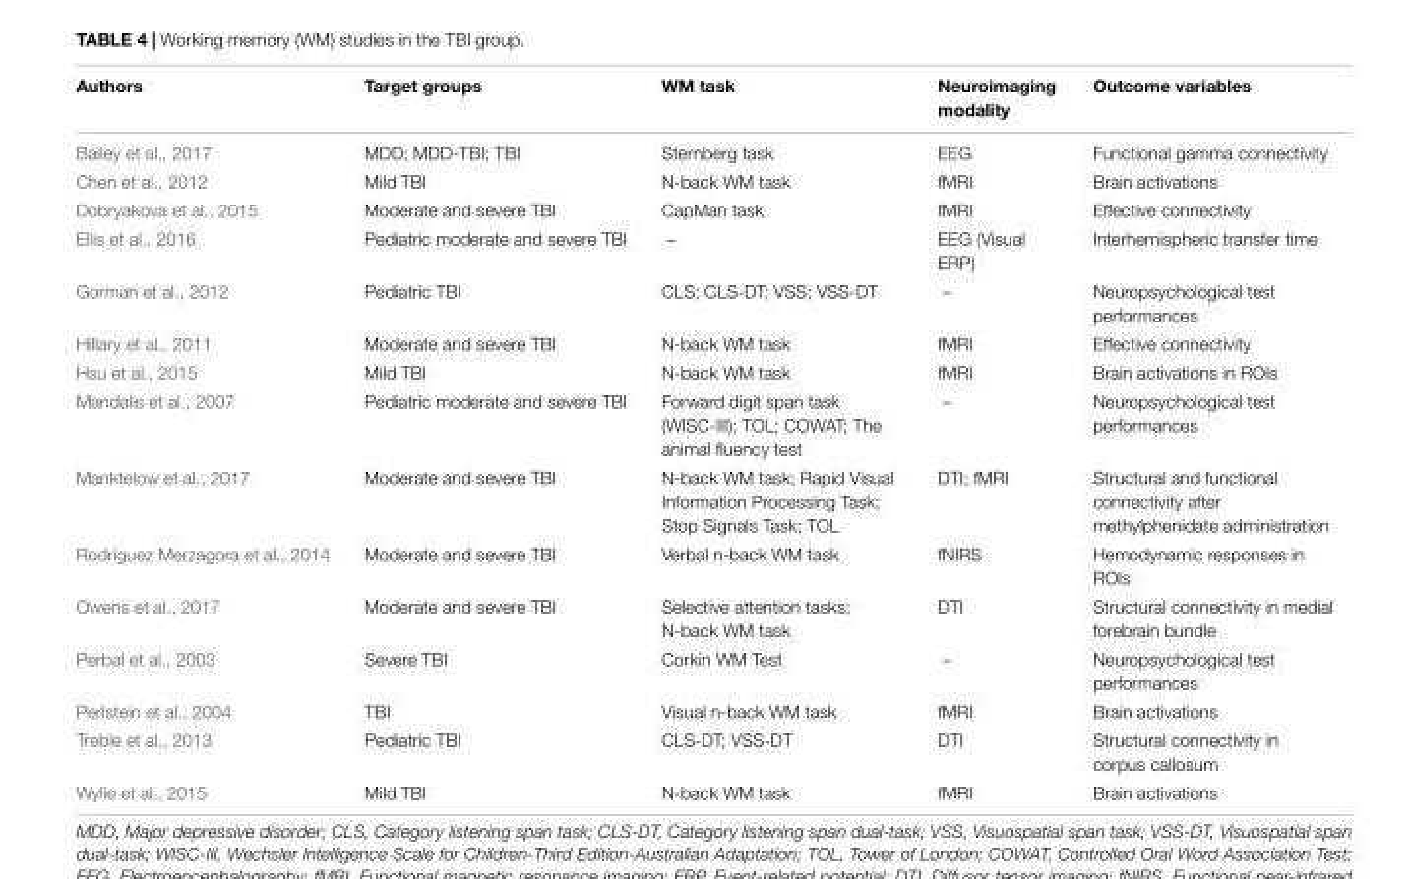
<table><thead><tr><td>Authors</td><td>Target groups</td><td>WM task</td><td>Neuroimaging modality</td><td>Outcome variables</td></tr></thead><tbody><tr><td>Bailey et al., 2017</td><td>MDD; MDD-TBI; TBI</td><td>Sternberg task</td><td>EEG</td><td>Functional gamma connectivity</td></tr><tr><td>Chen et al., 2012</td><td>Mild TBI</td><td>N-back WM task</td><td>fMRI</td><td>Brain activations</td></tr><tr><td>Dobryakova et al., 2015</td><td>Moderate and severe TBI</td><td>CapMan task</td><td>fMRI</td><td>Effective connectivity</td></tr><tr><td>Ellis et al., 2016</td><td>Pediatric moderate and severe TBI</td><td>–</td><td>EEG (Visual ERP)</td><td>Interhemispheric transfer time</td></tr><tr><td>Gorman et al., 2012</td><td>Pediatric TBI</td><td>CLS; CLS-DT; VSS; VSS-DT</td><td>–</td><td>Neuropsychological test performances</td></tr><tr><td>Hillary et al., 2011</td><td>Moderate and severe TBI</td><td>N-back WM task</td><td>fMRI</td><td>Effective connectivity</td></tr><tr><td>Hsu et al., 2015</td><td>Mild TBI</td><td>N-back WM task</td><td>fMRI</td><td>Brain activations in ROIs</td></tr><tr><td>Mandalis et al., 2007</td><td>Pediatric moderate and severe TBI</td><td>Forward digit span task (WISC-III); TOL; COWAT; The animal fluency test</td><td>–</td><td>Neuropsychological test performances</td></tr><tr><td>Manktelow et al., 2017</td><td>Moderate and severe TBI</td><td>N-back WM task; Rapid Visual Information Processing Task; Stop Signals Task; TOL</td><td>DTI; fMRI</td><td>Structural and functional connectivity after methylphenidate administration</td></tr><tr><td>Rodriguez Merzagora et al., 2014</td><td>Moderate and severe TBI</td><td>Verbal n-back WM task</td><td>fNIRS</td><td>Hemodynamic responses in ROIs</td></tr><tr><td>Owens et al., 2017</td><td>Moderate and severe TBI</td><td>Selective attention tasks; N-back WM task</td><td>DTI</td><td>Structural connectivity in medial forebrain bundle</td></tr><tr><td>Perbal et al., 2003</td><td>Severe TBI</td><td>Corkin WM Test</td><td>–</td><td>Neuropsychological test performances</td></tr><tr><td>Perlstein et al., 2004</td><td>TBI</td><td>Visual n-back WM task</td><td>fMRI</td><td>Brain activations</td></tr><tr><td>Treble et al., 2013</td><td>Pediatric TBI</td><td>CLS-DT; VSS-DT</td><td>DTI</td><td>Structural connectivity in corpus callosum</td></tr><tr><td>Wylie et al., 2015</td><td>Mild TBI</td><td>N-back WM task</td><td>fMRI</td><td>Brain activations</td></tr></tbody></table>